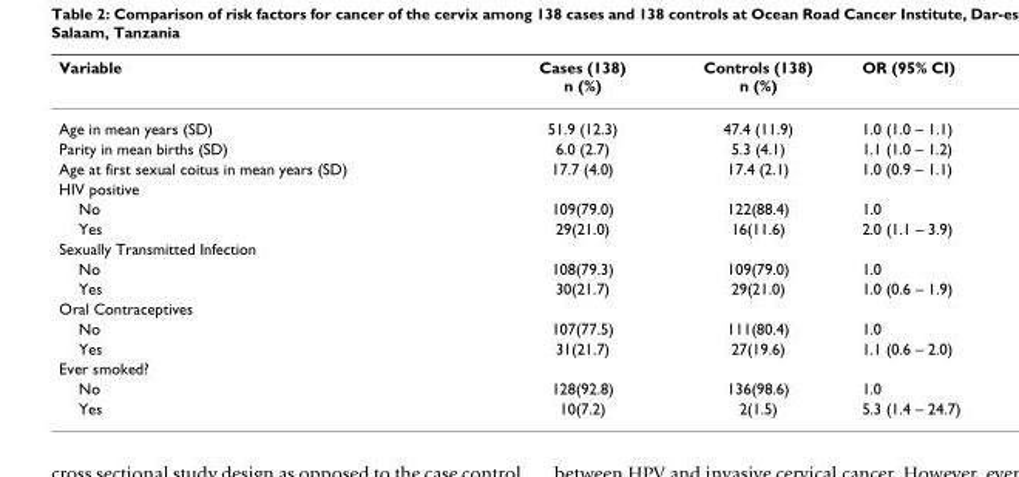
<table><thead><tr><td>Variable</td><td>Cases (138) n (%)</td><td>Controls (138) n (%)</td><td>OR (95% CI)</td></tr></thead><tbody><tr><td>Age in mean years (SD)</td><td>51.9 (12.3)</td><td>47.4 (11.9)</td><td>1.0 (1.0 – 1.1)</td></tr><tr><td>Parity in mean births (SD)</td><td>6.0 (2.7)</td><td>5.3 (4.1)</td><td>1.1 (1.0 – 1.2)</td></tr><tr><td>Age at first sexual coitus in mean years (SD)</td><td>17.7 (4.0)</td><td>17.4 (2.1)</td><td>1.0 (0.9 – 1.1)</td></tr><tr><td colspan="4">HIV positive</td></tr><tr><td>No</td><td>109(79.0)</td><td>122(88.4)</td><td>1.0</td></tr><tr><td>Yes</td><td>29(21.0)</td><td>16(11.6)</td><td>2.0 (1.1 – 3.9)</td></tr><tr><td colspan="4">Sexually Transmitted Infection</td></tr><tr><td>No</td><td>108(79.3)</td><td>109(79.0)</td><td>1.0</td></tr><tr><td>Yes</td><td>30(21.7)</td><td>29(21.0)</td><td>1.0 (0.6 – 1.9)</td></tr><tr><td colspan="4">Oral Contraceptives</td></tr><tr><td>No</td><td>107(77.5)</td><td>111(80.4)</td><td>1.0</td></tr><tr><td>Yes</td><td>31(21.7)</td><td>27(19.6)</td><td>1.1 (0.6 – 2.0)</td></tr><tr><td colspan="4">Ever smoked?</td></tr><tr><td>No</td><td>128(92.8)</td><td>136(98.6)</td><td>1.0</td></tr><tr><td>Yes</td><td>10(7.2)</td><td>2(1.5)</td><td>5.3 (1.4 – 24.7)</td></tr></tbody></table>